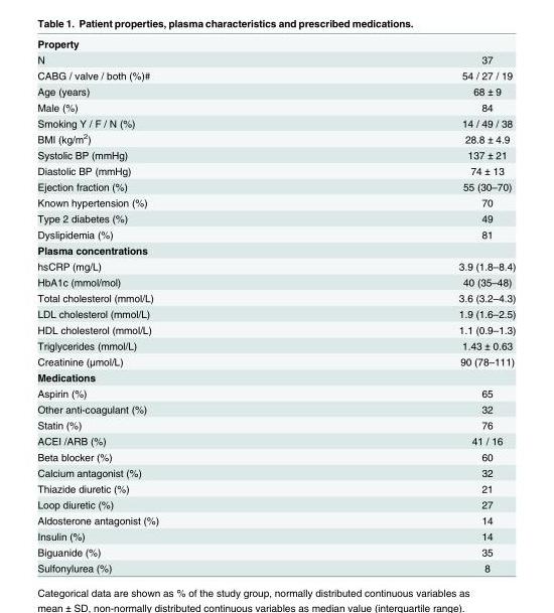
<table><tbody><tr><td colspan="2">Property</td></tr><tr><td>N</td><td>37</td></tr><tr><td>CABG / valve / both (%)#</td><td>54 / 27 / 19</td></tr><tr><td>Age (years)</td><td>68 ± 9</td></tr><tr><td>Male (%)</td><td>84</td></tr><tr><td>Smoking Y / F / N (%)</td><td>14 / 49 / 38</td></tr><tr><td>BMI (kg/m<sup>2</sup>)</td><td>28.8 ± 4.9</td></tr><tr><td>Systolic BP (mmHg)</td><td>137 ± 21</td></tr><tr><td>Diastolic BP (mmHg)</td><td>74 ± 13</td></tr><tr><td>Ejection fraction (%)</td><td>55 (30–70)</td></tr><tr><td>Known hypertension (%)</td><td>70</td></tr><tr><td>Type 2 diabetes (%)</td><td>49</td></tr><tr><td>Dyslipidemia (%)</td><td>81</td></tr><tr><td colspan="2">Plasma concentrations</td></tr><tr><td>hsCRP (mg/L)</td><td>3.9 (1.8–8.4)</td></tr><tr><td>HbA1c (mmol/mol)</td><td>40 (35–48)</td></tr><tr><td>Total cholesterol (mmol/L)</td><td>3.6 (3.2–4.3)</td></tr><tr><td>LDL cholesterol (mmol/L)</td><td>1.9 (1.6–2.5)</td></tr><tr><td>HDL cholesterol (mmol/L)</td><td>1.1 (0.9–1.3)</td></tr><tr><td>Triglycerides (mmol/L)</td><td>1.43 ± 0.63</td></tr><tr><td>Creatinine (μmol/L)</td><td>90 (78–111)</td></tr><tr><td colspan="2">Medications</td></tr><tr><td>Aspirin (%)</td><td>65</td></tr><tr><td>Other anti-coagulant (%)</td><td>32</td></tr><tr><td>Statin (%)</td><td>76</td></tr><tr><td>ACEI /ARB (%)</td><td>41 / 16</td></tr><tr><td>Beta blocker (%)</td><td>60</td></tr><tr><td>Calcium antagonist (%)</td><td>32</td></tr><tr><td>Thiazide diuretic (%)</td><td>21</td></tr><tr><td>Loop diuretic (%)</td><td>27</td></tr><tr><td>Aldosterone antagonist (%)</td><td>14</td></tr><tr><td>Insulin (%)</td><td>14</td></tr><tr><td>Biguanide (%)</td><td>35</td></tr><tr><td>Sulfonylurea (%)</td><td>8</td></tr></tbody></table>